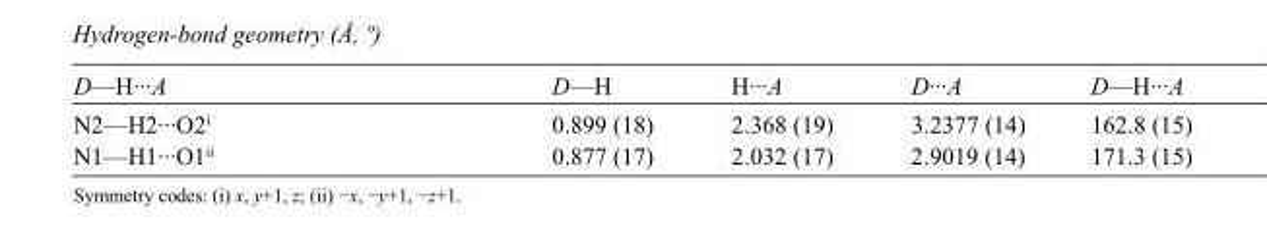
<table><tbody><tr><td>D—H···A</td><td>D—H</td><td>H···A</td><td>D···A</td><td>D—H···A</td></tr><tr><td>N2—H2···O2<sup>i</sup></td><td>0.899 (18)</td><td>2.368 (19)</td><td>3.2377 (14)</td><td>162.8 (15)</td></tr><tr><td>N1—H1···O1<sup>ii</sup></td><td>0.877 (17)</td><td>2.032 (17)</td><td>2.9019 (14)</td><td>171.3 (15)</td></tr></tbody></table>